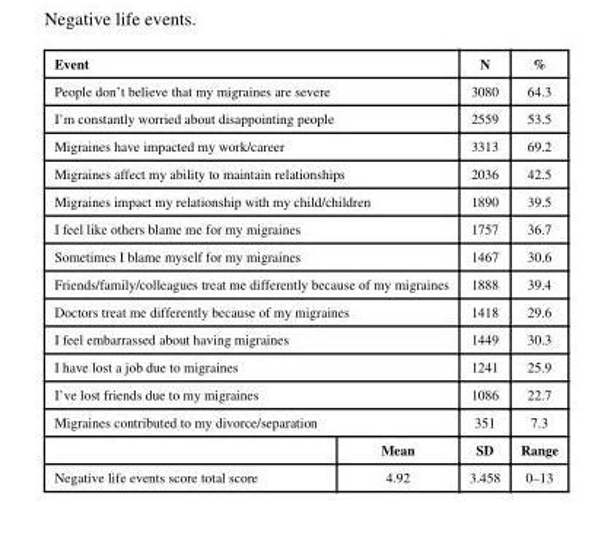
<table><thead><tr><td colspan="2">Event</td><td>N</td><td>%</td></tr></thead><tbody><tr><td colspan="2">People don’t believe that my migraines are severe</td><td>3080</td><td>64.3</td></tr><tr><td colspan="2">I’m constantly worried about disappointing people</td><td>2559</td><td>53.5</td></tr><tr><td colspan="2">Migraines have impacted my work/career</td><td>3313</td><td>69.2</td></tr><tr><td colspan="2">Migraines affect my ability to maintain relationships</td><td>2036</td><td>42.5</td></tr><tr><td colspan="2">Migraines impact my relationship with my child/children</td><td>1890</td><td>39.5</td></tr><tr><td colspan="2">I feel like others blame me for my migraines</td><td>1757</td><td>36.7</td></tr><tr><td colspan="2">Sometimes I blame myself for my migraines</td><td>1467</td><td>30.6</td></tr><tr><td colspan="2">Friends/family/colleagues treat me differently because of my migraines</td><td>1888</td><td>39.4</td></tr><tr><td colspan="2">Doctors treat me differently because of my migraines</td><td>1418</td><td>29.6</td></tr><tr><td colspan="2">I feel embarrassed about having migraines</td><td>1449</td><td>30.3</td></tr><tr><td colspan="2">I have lost a job due to migraines</td><td>1241</td><td>25.9</td></tr><tr><td colspan="2">I’ve lost friends due to my migraines</td><td>1086</td><td>22.7</td></tr><tr><td colspan="2">Migraines contributed to my divorce/separation</td><td>351</td><td>7.3</td></tr><tr><td></td><td>Mean</td><td>SD</td><td>Range</td></tr><tr><td>Negative life events score total score</td><td>4.92</td><td>3.458</td><td>0–13</td></tr></tbody></table>